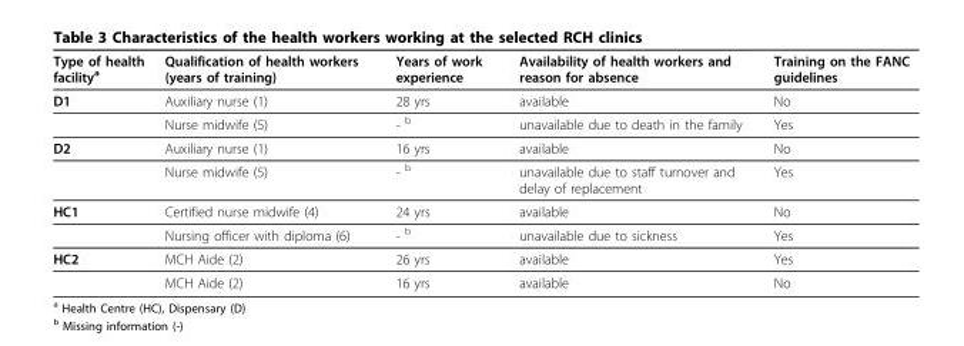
<table><thead><tr><td>Type of health facility<sup>a</sup></td><td>Qualification of health workers (years of training)</td><td>Years of work experience</td><td>Availability of health workers and reason for absence</td><td>Training on the FANC guidelines</td></tr></thead><tbody><tr><td rowspan="2">D1</td><td>Auxiliary nurse (1)</td><td>28 yrs</td><td>available</td><td>No</td></tr><tr><td>Nurse midwife (5)</td><td>- <sup>b</sup></td><td>unavailable due to death in the family</td><td>Yes</td></tr><tr><td rowspan="2">D2</td><td>Auxiliary nurse (1)</td><td>16 yrs</td><td>available</td><td>No</td></tr><tr><td>Nurse midwife (5)</td><td>- <sup>b</sup></td><td>unavailable due to staff turnover and delay of replacement</td><td>Yes</td></tr><tr><td rowspan="2">HC1</td><td>Certified nurse midwife (4)</td><td>24 yrs</td><td>available</td><td>No</td></tr><tr><td>Nursing officer with diploma (6)</td><td>- <sup>b</sup></td><td>unavailable due to sickness</td><td>Yes</td></tr><tr><td rowspan="2">HC2</td><td>MCH Aide (2)</td><td>26 yrs</td><td>available</td><td>Yes</td></tr><tr><td>MCH Aide (2)</td><td>16 yrs</td><td>available</td><td>No</td></tr></tbody></table>